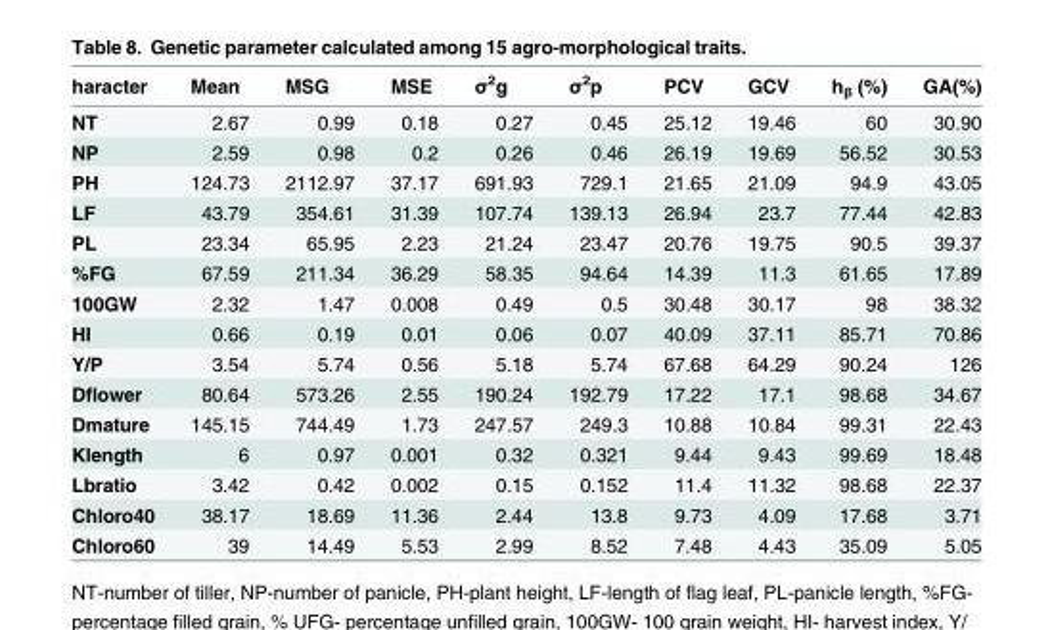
<table><thead><tr><td>haracter</td><td>Mean</td><td>MSG</td><td>MSE</td><td>σ<sup>2</sup>g</td><td>σ<sup>2</sup>p</td><td>PCV</td><td>GCV</td><td>h<sub>β</sub> (%)</td><td>GA(%)</td></tr></thead><tbody><tr><td>NT</td><td>2.67</td><td>0.99</td><td>0.18</td><td>0.27</td><td>0.45</td><td>25.12</td><td>19.46</td><td>60</td><td>30.90</td></tr><tr><td>NP</td><td>2.59</td><td>0.98</td><td>0.2</td><td>0.26</td><td>0.46</td><td>26.19</td><td>19.69</td><td>56.52</td><td>30.53</td></tr><tr><td>PH</td><td>124.73</td><td>2112.97</td><td>37.17</td><td>691.93</td><td>729.1</td><td>21.65</td><td>21.09</td><td>94.9</td><td>43.05</td></tr><tr><td>LF</td><td>43.79</td><td>354.61</td><td>31.39</td><td>107.74</td><td>139.13</td><td>26.94</td><td>23.7</td><td>77.44</td><td>42.83</td></tr><tr><td>PL</td><td>23.34</td><td>65.95</td><td>2.23</td><td>21.24</td><td>23.47</td><td>20.76</td><td>19.75</td><td>90.5</td><td>39.37</td></tr><tr><td>%FG</td><td>67.59</td><td>211.34</td><td>36.29</td><td>58.35</td><td>94.64</td><td>14.39</td><td>11.3</td><td>61.65</td><td>17.89</td></tr><tr><td>100GW</td><td>2.32</td><td>1.47</td><td>0.008</td><td>0.49</td><td>0.5</td><td>30.48</td><td>30.17</td><td>98</td><td>38.32</td></tr><tr><td>HI</td><td>0.66</td><td>0.19</td><td>0.01</td><td>0.06</td><td>0.07</td><td>40.09</td><td>37.11</td><td>85.71</td><td>70.86</td></tr><tr><td>Y/P</td><td>3.54</td><td>5.74</td><td>0.56</td><td>5.18</td><td>5.74</td><td>67.68</td><td>64.29</td><td>90.24</td><td>126</td></tr><tr><td>Dflower</td><td>80.64</td><td>573.26</td><td>2.55</td><td>190.24</td><td>192.79</td><td>17.22</td><td>17.1</td><td>98.68</td><td>34.67</td></tr><tr><td>Dmature</td><td>145.15</td><td>744.49</td><td>1.73</td><td>247.57</td><td>249.3</td><td>10.88</td><td>10.84</td><td>99.31</td><td>22.43</td></tr><tr><td>Klength</td><td>6</td><td>0.97</td><td>0.001</td><td>0.32</td><td>0.321</td><td>9.44</td><td>9.43</td><td>99.69</td><td>18.48</td></tr><tr><td>Lbratio</td><td>3.42</td><td>0.42</td><td>0.002</td><td>0.15</td><td>0.152</td><td>11.4</td><td>11.32</td><td>98.68</td><td>22.37</td></tr><tr><td>Chloro40</td><td>38.17</td><td>18.69</td><td>11.36</td><td>2.44</td><td>13.8</td><td>9.73</td><td>4.09</td><td>17.68</td><td>3.71</td></tr><tr><td>Chloro60</td><td>39</td><td>14.49</td><td>5.53</td><td>2.99</td><td>8.52</td><td>7.48</td><td>4.43</td><td>35.09</td><td>5.05</td></tr></tbody></table>